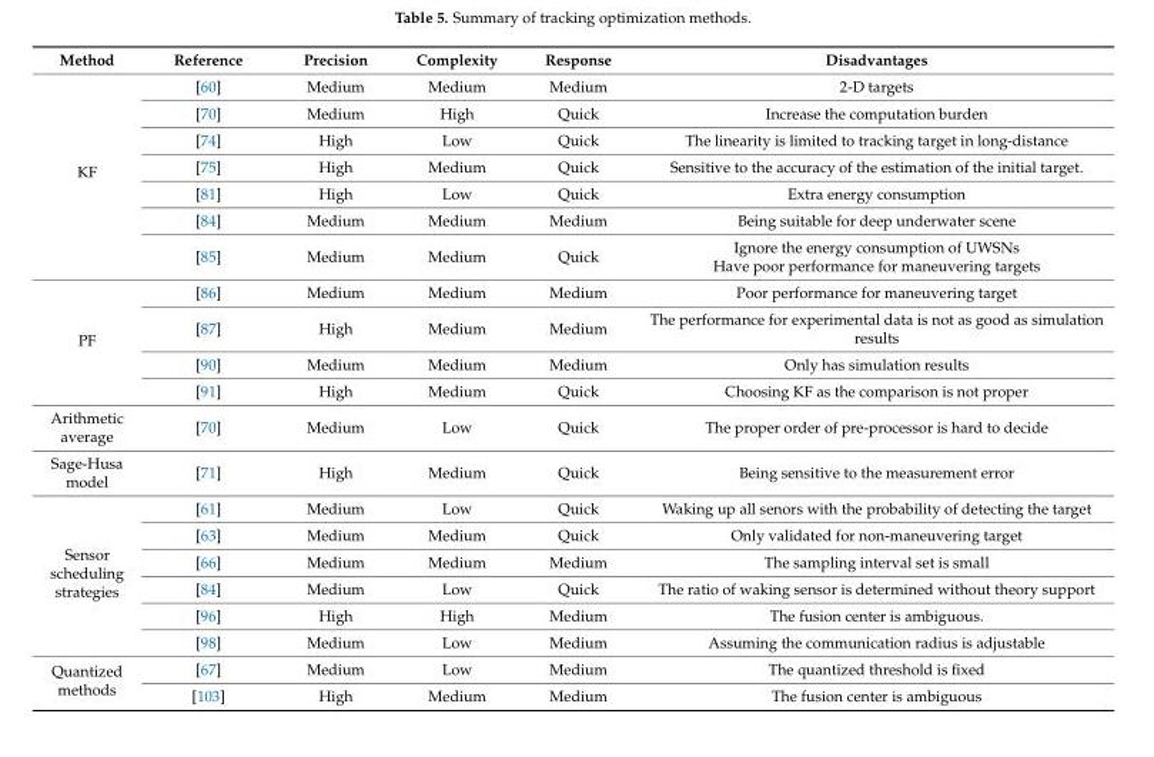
<table><thead><tr><td>Method</td><td>Reference</td><td>Precision</td><td>Complexity</td><td>Response</td><td>Disadvantages</td></tr></thead><tbody><tr><td rowspan="7">KF</td><td>[60]</td><td>Medium</td><td>Medium</td><td>Medium</td><td>2-D targets</td></tr><tr><td>[70]</td><td>Medium</td><td>High</td><td>Quick</td><td>Increase the computation burden</td></tr><tr><td>[74]</td><td>High</td><td>Low</td><td>Quick</td><td>The linearity is limited to tracking target in long-distance</td></tr><tr><td>[75]</td><td>High</td><td>Medium</td><td>Quick</td><td>Sensitive to the accuracy of the estimation of the initial target.</td></tr><tr><td>[81]</td><td>High</td><td>Low</td><td>Quick</td><td>Extra energy consumption</td></tr><tr><td>[84]</td><td>Medium</td><td>Medium</td><td>Medium</td><td>Being suitable for deep underwater scene</td></tr><tr><td>[85]</td><td>Medium</td><td>Medium</td><td>Quick</td><td>Ignore the energy consumption of UWSNs Have poor performance for maneuvering targets</td></tr><tr><td rowspan="4">PF</td><td>[86]</td><td>Medium</td><td>Medium</td><td>Medium</td><td>Poor performance for maneuvering target</td></tr><tr><td>[87]</td><td>High</td><td>Medium</td><td>Medium</td><td>The performance for experimental data is not as good as simulation results</td></tr><tr><td>[90]</td><td>Medium</td><td>Medium</td><td>Medium</td><td>Only has simulation results</td></tr><tr><td>[91]</td><td>High</td><td>Medium</td><td>Quick</td><td>Choosing KF as the comparison is not proper</td></tr><tr><td>Arithmetic average</td><td>[70]</td><td>Medium</td><td>Low</td><td>Quick</td><td>The proper order of pre-processor is hard to decide</td></tr><tr><td>Sage-Husa model</td><td>[71]</td><td>High</td><td>Medium</td><td>Quick</td><td>Being sensitive to the measurement error</td></tr><tr><td rowspan="6">Sensor scheduling strategies</td><td>[61]</td><td>Medium</td><td>Low</td><td>Quick</td><td>Waking up all senors with the probability of detecting the target</td></tr><tr><td>[63]</td><td>Medium</td><td>Medium</td><td>Quick</td><td>Only validated for non-maneuvering target</td></tr><tr><td>[66]</td><td>Medium</td><td>Medium</td><td>Medium</td><td>The sampling interval set is small</td></tr><tr><td>[84]</td><td>Medium</td><td>Low</td><td>Quick</td><td>The ratio of waking sensor is determined without theory support</td></tr><tr><td>[96]</td><td>High</td><td>High</td><td>Medium</td><td>The fusion center is ambiguous.</td></tr><tr><td>[98]</td><td>Medium</td><td>Low</td><td>Medium</td><td>Assuming the communication radius is adjustable</td></tr><tr><td rowspan="2">Quantized methods</td><td>[67]</td><td>Medium</td><td>Low</td><td>Medium</td><td>The quantized threshold is fixed</td></tr><tr><td>[103]</td><td>High</td><td>Medium</td><td>Medium</td><td>The fusion center is ambiguous</td></tr></tbody></table>